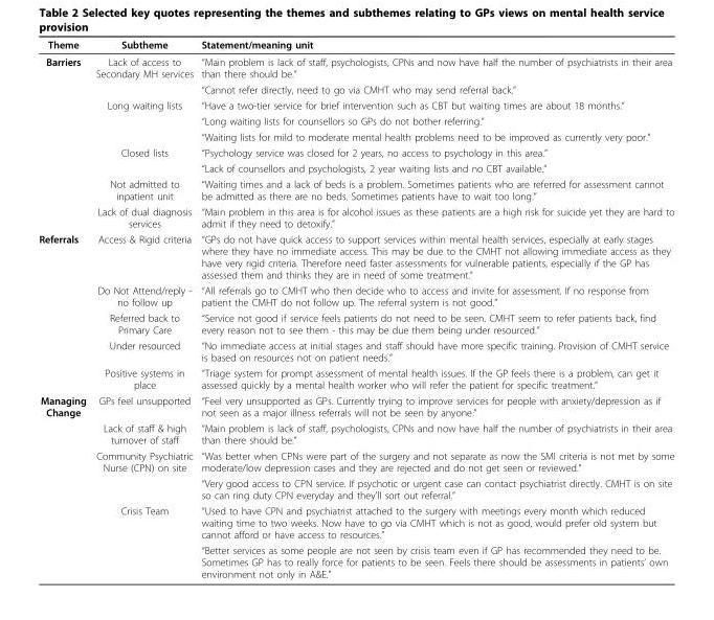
<table><thead><tr><td>Theme</td><td>Subtheme</td><td>Statement/meaning unit</td></tr></thead><tbody><tr><td rowspan="9">Barriers</td><td>Lack of access to Secondary MH services</td><td>“Main problem is lack of staff, psychologists, CPNs and now have half the number of psychiatrists in their area than there should be.”</td></tr><tr><td></td><td>“Cannot refer directly, need to go via CMHT who may send referral back.”</td></tr><tr><td>Long waiting lists</td><td>“Have a two-tier service for brief intervention such as CBT but waiting times are about 18 months.”</td></tr><tr><td></td><td>“Long waiting lists for counsellors so GPs do not bother referring.”</td></tr><tr><td></td><td>“Waiting lists for mild to moderate mental health problems need to be improved as currently very poor.”</td></tr><tr><td>Closed lists</td><td>“Psychology service was closed for 2 years, no access to psychology in this area.”</td></tr><tr><td></td><td>“Lack of counsellors and psychologists, 2 year waiting lists and no CBT available.”</td></tr><tr><td>Not admitted to inpatient unit</td><td>“Waiting times and a lack of beds is a problem. Sometimes patients who are referred for assessment cannot be admitted as there are no beds. Sometimes patients have to wait too long.”</td></tr><tr><td>Lack of dual diagnosis services</td><td>“Main problem in this area is for alcohol issues as these patients are a high risk for suicide yet they are hard to admit if they need to detoxify.”</td></tr><tr><td rowspan="5">Referrals</td><td>Access &amp; Rigid criteria</td><td>“GPs do not have quick access to support services within mental health services, especially at early stages where they have no immediate access. This may be due to the CMHT not allowing immediate access as they have very rigid criteria. Therefore need faster assessments for vulnerable patients, especially if the GP has assessed them and thinks they are in need of some treatment.”</td></tr><tr><td>Do Not Attend/reply - no follow up</td><td>“All referrals go to CMHT who then decide who to access and invite for assessment. If no response from patient the CMHT do not follow up. The referral system is not good.”</td></tr><tr><td>Referred back to Primary Care</td><td>“Service not good if service feels patients do not need to be seen. CMHT seem to refer patients back, find every reason not to see them - this may be due them being under resourced.”</td></tr><tr><td>Under resourced</td><td>“No immediate access at initial stages and staff should have more specific training. Provision of CMHT service is based on resources not on patient needs.”</td></tr><tr><td>Positive systems in place</td><td>“Triage system for prompt assessment of mental health issues. If the GP feels there is a problem, can get it assessed quickly by a mental health worker who will refer the patient for specific treatment.”</td></tr><tr><td rowspan="6">Managing Change</td><td>GPs feel unsupported</td><td>“Feel very unsupported as GPs. Currently trying to improve services for people with anxiety/depression as if not seen as a major illness referrals will not be seen by anyone.”</td></tr><tr><td>Lack of staff &amp; high turnover of staff</td><td>“Main problem is lack of staff, psychologists, CPNs and now have half the number of psychiatrists in their area than there should be.”</td></tr><tr><td>Community Psychiatric Nurse (CPN) on site</td><td>“Was better when CPNs were part of the surgery and not separate as now the SMI criteria is not met by some moderate/low depression cases and they are rejected and do not get seen or reviewed.”</td></tr><tr><td></td><td>“Very good access to CPN service. If psychotic or urgent case can contact psychiatrist directly. CMHT is on site so can ring duty CPN everyday and they’ll sort out referral.”</td></tr><tr><td>Crisis Team</td><td>“Used to have CPN and psychiatrist attached to the surgery with meetings every month which reduced waiting time to two weeks. Now have to go via CMHT which is not as good, would prefer old system but cannot afford or have access to resources.”</td></tr><tr><td></td><td>“Better services as some people are not seen by crisis team even if GP has recommended they need to be. Sometimes GP has to really force for patients to be seen. Feels there should be assessments in patients’ own environment not only in A&amp;E.”</td></tr></tbody></table>